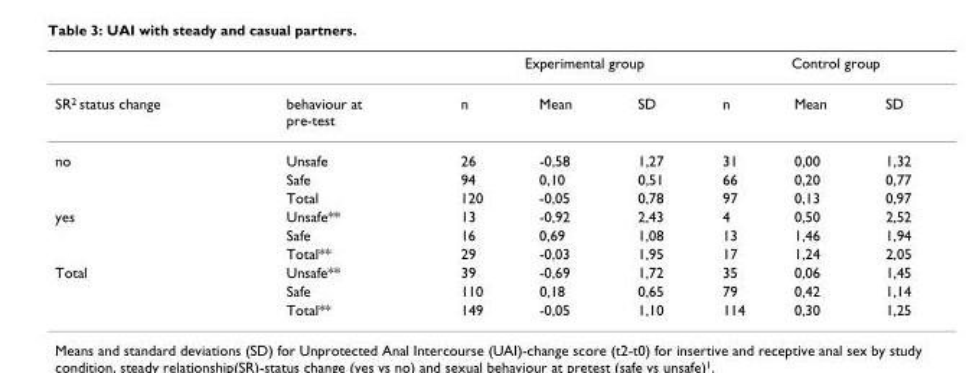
<table><thead><tr><td rowspan="2">SR<sup>2</sup> status change</td><td rowspan="2">behaviour at pre-test</td><td colspan="3">Experimental group</td><td colspan="3">Control group</td></tr><tr><td>n</td><td>Mean</td><td>SD</td><td>n</td><td>Mean</td><td>SD</td></tr></thead><tbody><tr><td rowspan="3">no</td><td>Unsafe</td><td>26</td><td>-0,58</td><td>1,27</td><td>31</td><td>0,00</td><td>1,32</td></tr><tr><td>Safe</td><td>94</td><td>0,10</td><td>0,51</td><td>66</td><td>0,20</td><td>0,77</td></tr><tr><td>Total</td><td>120</td><td>-0,05</td><td>0,78</td><td>97</td><td>0,13</td><td>0,97</td></tr><tr><td rowspan="3">yes</td><td>Unsafe**</td><td>13</td><td>-0,92</td><td>2,43</td><td>4</td><td>0,50</td><td>2,52</td></tr><tr><td>Safe</td><td>16</td><td>0,69</td><td>1,08</td><td>13</td><td>1,46</td><td>1,94</td></tr><tr><td>Total**</td><td>29</td><td>-0,03</td><td>1,95</td><td>17</td><td>1,24</td><td>2,05</td></tr><tr><td rowspan="3">Total</td><td>Unsafe**</td><td>39</td><td>-0,69</td><td>1,72</td><td>35</td><td>0,06</td><td>1,45</td></tr><tr><td>Safe</td><td>110</td><td>0,18</td><td>0,65</td><td>79</td><td>0,42</td><td>1,14</td></tr><tr><td>Total**</td><td>149</td><td>-0,05</td><td>1,10</td><td>114</td><td>0,30</td><td>1,25</td></tr></tbody></table>